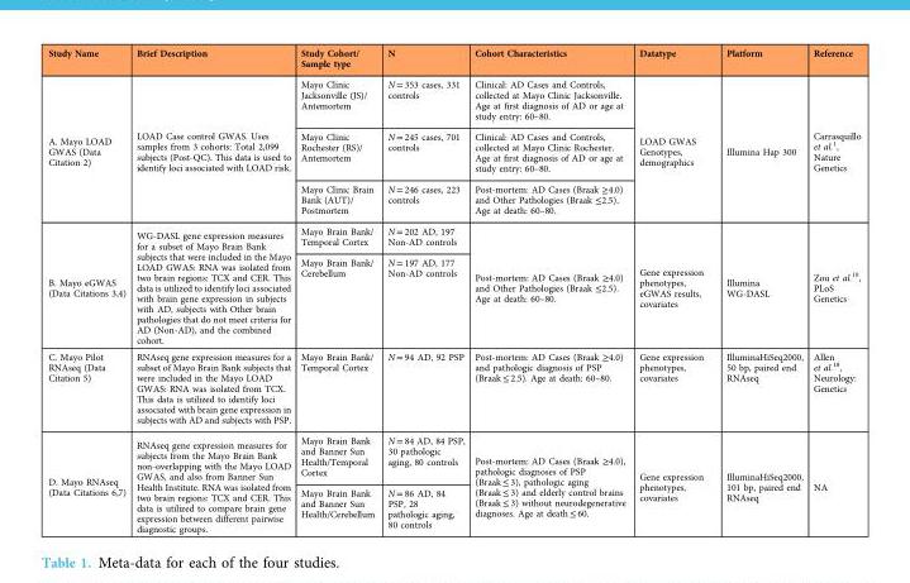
<table><thead><tr><td>Study Name</td><td>Brief Description</td><td>Study Cohort/ Sample type</td><td>N</td><td>Cohort Characteristics</td><td>Datatype</td><td>Platform</td><td>Reference</td></tr></thead><tbody><tr><td rowspan="3">A. Mayo LOAD GWAS (Data Citation 2)</td><td rowspan="3">LOAD Case control GWAS. Uses samples from 3 cohorts: Total 2,099 subjects (Post-QC). This data is used to identify loci associated with LOAD risk.</td><td>Mayo Clinic Jacksonville (JS)/ Antemortem</td><td>N = 353 cases, 331 controls</td><td>Clinical: AD Cases and Controls, collected at Mayo Clinic Jacksonville. Age at first diagnosis of AD or age at study entry: 60–80.</td><td rowspan="3">LOAD GWAS Genotypes, demographics</td><td rowspan="3">Illumina Hap 300</td><td rowspan="3">Carrasquillo et al.<sup>1</sup>, Nature Genetics</td></tr><tr><td>Mayo Clinic Rochester (RS)/ Antemortem</td><td>N = 245 cases, 701 controls</td><td>Clinical: AD Cases and Controls, collected at Mayo Clinic Rochester. Age at first diagnosis of AD or age at study entry: 60–80.</td></tr><tr><td>Mayo Clinic Brain Bank (AUT)/ Postmortem</td><td>N = 246 cases, 223 controls</td><td>Post-mortem: AD Cases (Braak ≥4.0) and Other Pathologies (Braak ≤2.5). Age at death: 60–80.</td></tr><tr><td rowspan="2">B. Mayo eGWAS (Data Citations 3,4)</td><td rowspan="2">WG-DASL gene expression measures for a subset of Mayo Brain Bank subjects that were included in the Mayo LOAD GWAS: RNA was isolated from two brain regions: TCX and CER. This data is utilized to identify loci associated with brain gene expression in subjects with AD, subjects with Other brain pathologies that do not meet criteria for AD (Non-AD), and the combined cohort.</td><td>Mayo Brain Bank/ Temporal Cortex</td><td>N = 202 AD, 197 Non-AD controls</td><td rowspan="2">Post-mortem: AD Cases (Braak ≥4.0) and Other Pathologies (Braak ≤2.5). Age at death: 60–80.</td><td rowspan="2">Gene expression phenotypes, eGWAS results, covariates</td><td rowspan="2">Illumina WG-DASL</td><td rowspan="2">Zou et al.<sup>10</sup>, PLoS Genetics</td></tr><tr><td>Mayo Brain Bank/ Cerebellum</td><td>N = 197 AD, 177 Non-AD controls</td></tr><tr><td>C. Mayo Pilot RNAseq (Data Citation 5)</td><td>RNAseq gene expression measures for a subset of Mayo Brain Bank subjects that were included in the Mayo LOAD GWAS: RNA was isolated from TCX. This data is utilized to identify loci associated with brain gene expression in subjects with AD and subjects with PSP.</td><td>Mayo Brain Bank/ Temporal Cortex</td><td>N = 94 AD, 92 PSP</td><td>Post-mortem: AD Cases (Braak ≥4.0) and pathologic diagnosis of PSP (Braak ≤ 2.5). Age at death: 60–80.</td><td>Gene expression phenotypes, covariates</td><td>IlluminaHiSeq2000, 50 bp, paired end RNAseq</td><td>Allen et al.<sup>18</sup>, Neurology: Genetics</td></tr><tr><td rowspan="2">D. Mayo RNAseq (Data Citations 6,7)</td><td rowspan="2">RNAseq gene expression measures for subjects from the Mayo Brain Bank non-overlapping with the Mayo LOAD GWAS, and also from Banner Sun Health Institute. RNA was isolated from two brain regions: TCX and CER. This data is utilized to compare brain gene expression between different pairwise diagnostic groups.</td><td>Mayo Brain Bank and Banner Sun Health/Temporal Cortex</td><td>N = 84 AD, 84 PSP, 30 pathologic aging, 80 controls</td><td rowspan="2">Post-mortem: AD Cases (Braak ≥4.0), pathologic diagnoses of PSP (Braak ≤ 3), pathologic aging (Braak ≤ 3) and elderly control brains (Braak ≤ 3) without neurodegenerative diagnoses. Age at death ≤ 60.</td><td rowspan="2">Gene expression phenotypes, covariates</td><td rowspan="2">IlluminaHiSeq2000, 101 bp, paired end RNAseq</td><td rowspan="2">NA</td></tr><tr><td>Mayo Brain Bank and Banner Sun Health/Cerebellum</td><td>N = 86 AD, 84 PSP, 28 pathologic aging, 80 controls</td></tr></tbody></table>